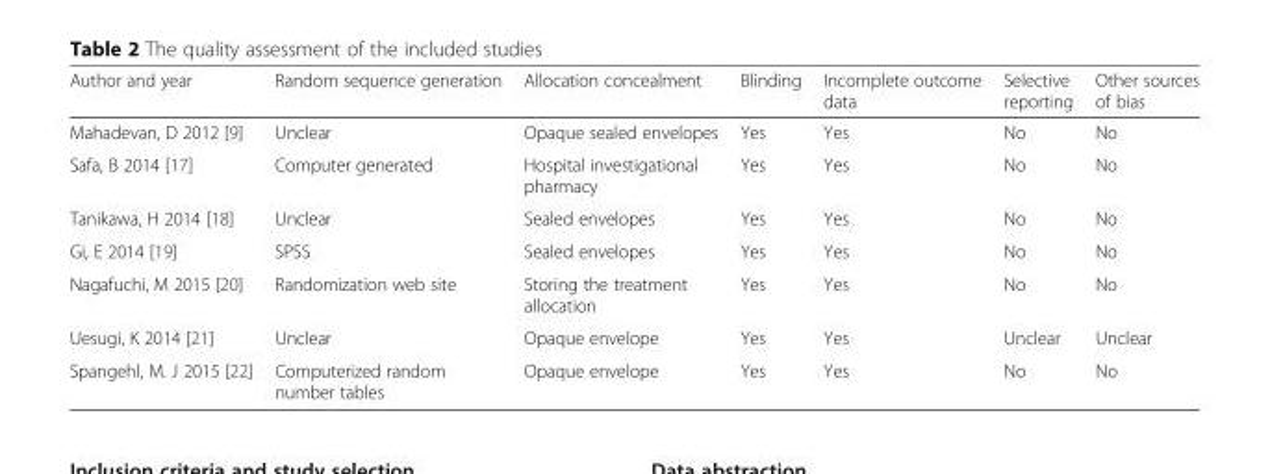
<table><thead><tr><td>Author and year</td><td>Random sequence generation</td><td>Allocation concealment</td><td>Blinding</td><td>Incomplete outcome data</td><td>Selective reporting</td><td>Other sources of bias</td></tr></thead><tbody><tr><td>Mahadevan, D 2012 [9]</td><td>Unclear</td><td>Opaque sealed envelopes</td><td>Yes</td><td>Yes</td><td>No</td><td>No</td></tr><tr><td>Safa, B 2014 [17]</td><td>Computer generated</td><td>Hospital investigational pharmacy</td><td>Yes</td><td>Yes</td><td>No</td><td>No</td></tr><tr><td>Tanikawa, H 2014 [18]</td><td>Unclear</td><td>Sealed envelopes</td><td>Yes</td><td>Yes</td><td>No</td><td>No</td></tr><tr><td>Gi, E 2014 [19]</td><td>SPSS</td><td>Sealed envelopes</td><td>Yes</td><td>Yes</td><td>No</td><td>No</td></tr><tr><td>Nagafuchi, M 2015 [20]</td><td>Randomization web site</td><td>Storing the treatment allocation</td><td>Yes</td><td>Yes</td><td>No</td><td>No</td></tr><tr><td>Uesugi, K 2014 [21]</td><td>Unclear</td><td>Opaque envelope</td><td>Yes</td><td>Yes</td><td>Unclear</td><td>Unclear</td></tr><tr><td>Spangehl, M. J 2015 [22]</td><td>Computerized random number tables</td><td>Opaque envelope</td><td>Yes</td><td>Yes</td><td>No</td><td>No</td></tr></tbody></table>